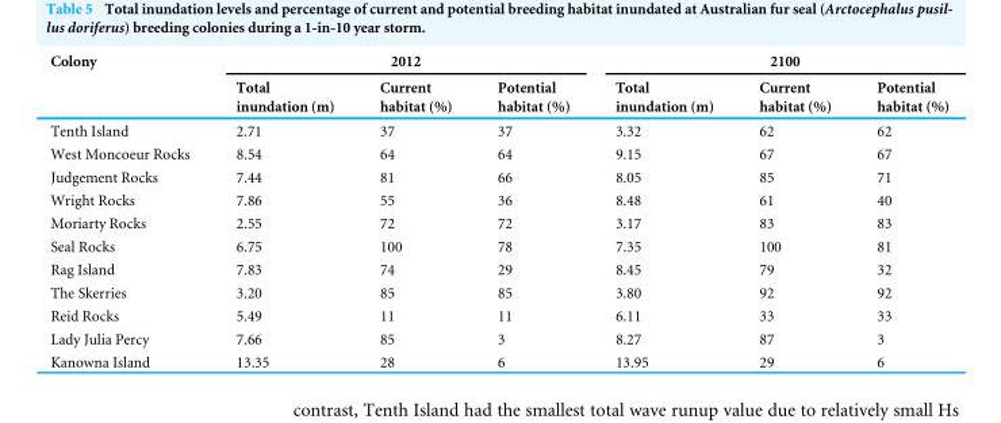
<table><thead><tr><td rowspan="2">Colony</td><td colspan="3">2012</td><td colspan="3">2100</td></tr><tr><td>Total inundation (m)</td><td>Current habitat (%)</td><td>Potential habitat (%)</td><td>Total inundation (m)</td><td>Current habitat (%)</td><td>Potential habitat (%)</td></tr></thead><tbody><tr><td>Tenth Island</td><td>2.71</td><td>37</td><td>37</td><td>3.32</td><td>62</td><td>62</td></tr><tr><td>West Moncoeur Rocks</td><td>8.54</td><td>64</td><td>64</td><td>9.15</td><td>67</td><td>67</td></tr><tr><td>Judgement Rocks</td><td>7.44</td><td>81</td><td>66</td><td>8.05</td><td>85</td><td>71</td></tr><tr><td>Wright Rocks</td><td>7.86</td><td>55</td><td>36</td><td>8.48</td><td>61</td><td>40</td></tr><tr><td>Moriarty Rocks</td><td>2.55</td><td>72</td><td>72</td><td>3.17</td><td>83</td><td>83</td></tr><tr><td>Seal Rocks</td><td>6.75</td><td>100</td><td>78</td><td>7.35</td><td>100</td><td>81</td></tr><tr><td>Rag Island</td><td>7.83</td><td>74</td><td>29</td><td>8.45</td><td>79</td><td>32</td></tr><tr><td>The Skerries</td><td>3.20</td><td>85</td><td>85</td><td>3.80</td><td>92</td><td>92</td></tr><tr><td>Reid Rocks</td><td>5.49</td><td>11</td><td>11</td><td>6.11</td><td>33</td><td>33</td></tr><tr><td>Lady Julia Percy</td><td>7.66</td><td>85</td><td>3</td><td>8.27</td><td>87</td><td>3</td></tr><tr><td>Kanowna Island</td><td>13.35</td><td>28</td><td>6</td><td>13.95</td><td>29</td><td>6</td></tr></tbody></table>